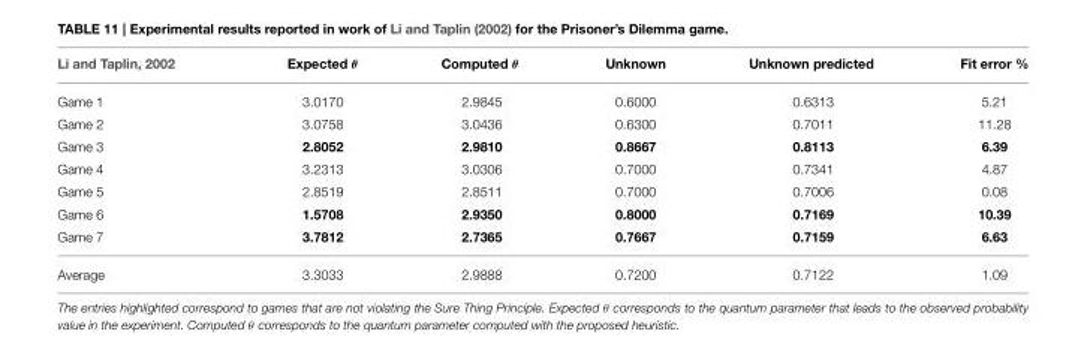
<table><thead><tr><td>Li and Taplin, 2002</td><td>Expected θ</td><td>Computed θ</td><td>Unknown</td><td>Unknown predicted</td><td>Fit error %</td></tr></thead><tbody><tr><td>Game 1</td><td>3.0170</td><td>2.9845</td><td>0.6000</td><td>0.6313</td><td>5.21</td></tr><tr><td>Game 2</td><td>3.0758</td><td>3.0436</td><td>0.6300</td><td>0.7011</td><td>11.28</td></tr><tr><td>Game 3</td><td>2.8052</td><td>2.9810</td><td>0.8667</td><td>0.8113</td><td>6.39</td></tr><tr><td>Game 4</td><td>3.2313</td><td>3.0306</td><td>0.7000</td><td>0.7341</td><td>4.87</td></tr><tr><td>Game 5</td><td>2.8519</td><td>2.8511</td><td>0.7000</td><td>0.7006</td><td>0.08</td></tr><tr><td>Game 6</td><td>1.5708</td><td>2.9350</td><td>0.8000</td><td>0.7169</td><td>10.39</td></tr><tr><td>Game 7</td><td>3.7812</td><td>2.7365</td><td>0.7667</td><td>0.7159</td><td>6.63</td></tr><tr><td>Average</td><td>3.3033</td><td>2.9888</td><td>0.7200</td><td>0.7122</td><td>1.09</td></tr></tbody></table>